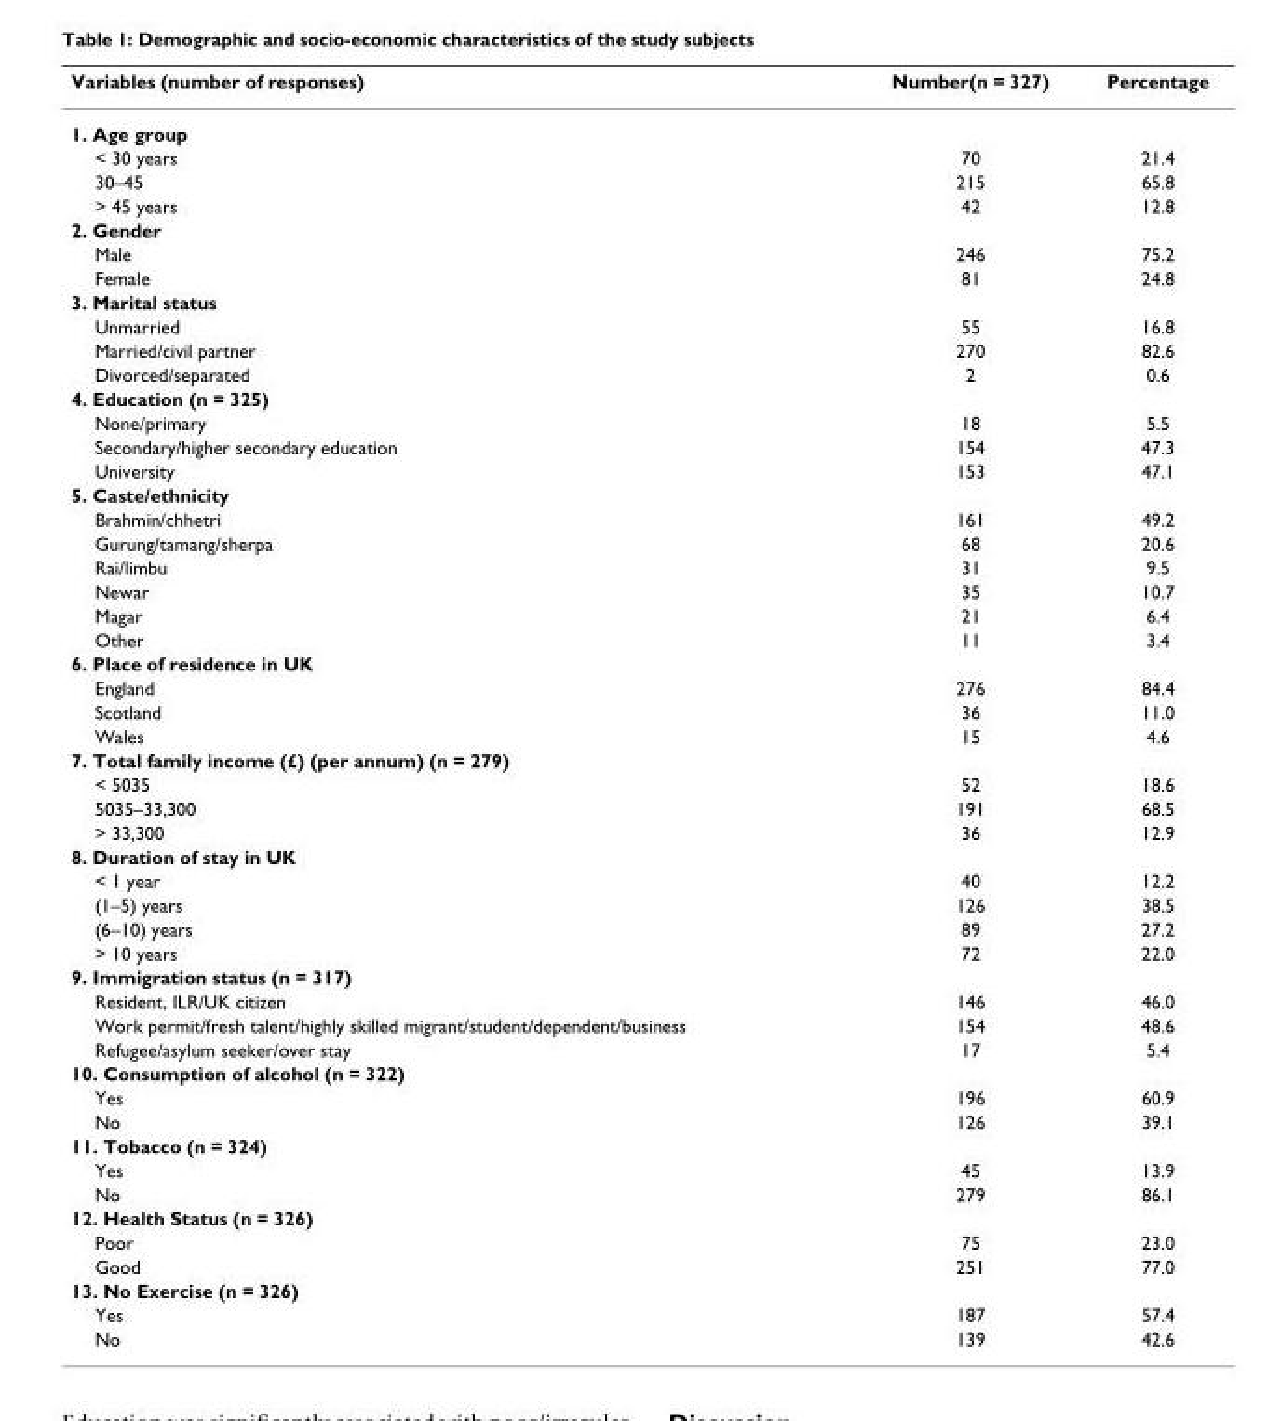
<table><thead><tr><td>Variables (number of responses)</td><td>Number(n = 327)</td><td>Percentage</td></tr></thead><tbody><tr><td colspan="3">1. Age group</td></tr><tr><td>&lt; 30 years</td><td>70</td><td>21.4</td></tr><tr><td>30–45</td><td>215</td><td>65.8</td></tr><tr><td>&gt; 45 years</td><td>42</td><td>12.8</td></tr><tr><td colspan="3">2. Gender</td></tr><tr><td>Male</td><td>246</td><td>75.2</td></tr><tr><td>Female</td><td>81</td><td>24.8</td></tr><tr><td colspan="3">3. Marital status</td></tr><tr><td>Unmarried</td><td>55</td><td>16.8</td></tr><tr><td>Married/civil partner</td><td>270</td><td>82.6</td></tr><tr><td>Divorced/separated</td><td>2</td><td>0.6</td></tr><tr><td colspan="3">4. Education (n = 325)</td></tr><tr><td>None/primary</td><td>18</td><td>5.5</td></tr><tr><td>Secondary/higher secondary education</td><td>154</td><td>47.3</td></tr><tr><td>University</td><td>153</td><td>47.1</td></tr><tr><td colspan="3">5. Caste/ethnicity</td></tr><tr><td>Brahmin/chhetri</td><td>161</td><td>49.2</td></tr><tr><td>Gurung/tamang/sherpa</td><td>68</td><td>20.6</td></tr><tr><td>Rai/limbu</td><td>31</td><td>9.5</td></tr><tr><td>Newar</td><td>35</td><td>10.7</td></tr><tr><td>Magar</td><td>21</td><td>6.4</td></tr><tr><td>Other</td><td>11</td><td>3.4</td></tr><tr><td colspan="3">6. Place of residence in UK</td></tr><tr><td>England</td><td>276</td><td>84.4</td></tr><tr><td>Scotland</td><td>36</td><td>11.0</td></tr><tr><td>Wales</td><td>15</td><td>4.6</td></tr><tr><td colspan="3">7. Total family income (£) (per annum) (n = 279)</td></tr><tr><td>&lt; 5035</td><td>52</td><td>18.6</td></tr><tr><td>5035–33,300</td><td>191</td><td>68.5</td></tr><tr><td>&gt; 33,300</td><td>36</td><td>12.9</td></tr><tr><td colspan="3">8. Duration of stay in UK</td></tr><tr><td>&lt; 1 year</td><td>40</td><td>12.2</td></tr><tr><td>(1–5) years</td><td>126</td><td>38.5</td></tr><tr><td>(6–10) years</td><td>89</td><td>27.2</td></tr><tr><td>&gt; 10 years</td><td>72</td><td>22.0</td></tr><tr><td colspan="3">9. Immigration status (n = 317)</td></tr><tr><td>Resident, ILR/UK citizen</td><td>146</td><td>46.0</td></tr><tr><td>Work permit/fresh talent/highly skilled migrant/student/dependent/business</td><td>154</td><td>48.6</td></tr><tr><td>Refugee/asylum seeker/over stay</td><td>17</td><td>5.4</td></tr><tr><td colspan="3">10. Consumption of alcohol (n = 322)</td></tr><tr><td>Yes</td><td>196</td><td>60.9</td></tr><tr><td>No</td><td>126</td><td>39.1</td></tr><tr><td colspan="3">11. Tobacco (n = 324)</td></tr><tr><td>Yes</td><td>45</td><td>13.9</td></tr><tr><td>No</td><td>279</td><td>86.1</td></tr><tr><td colspan="3">12. Health Status (n = 326)</td></tr><tr><td>Poor</td><td>75</td><td>23.0</td></tr><tr><td>Good</td><td>251</td><td>77.0</td></tr><tr><td colspan="3">13. No Exercise (n = 326)</td></tr><tr><td>Yes</td><td>187</td><td>57.4</td></tr><tr><td>No</td><td>139</td><td>42.6</td></tr></tbody></table>